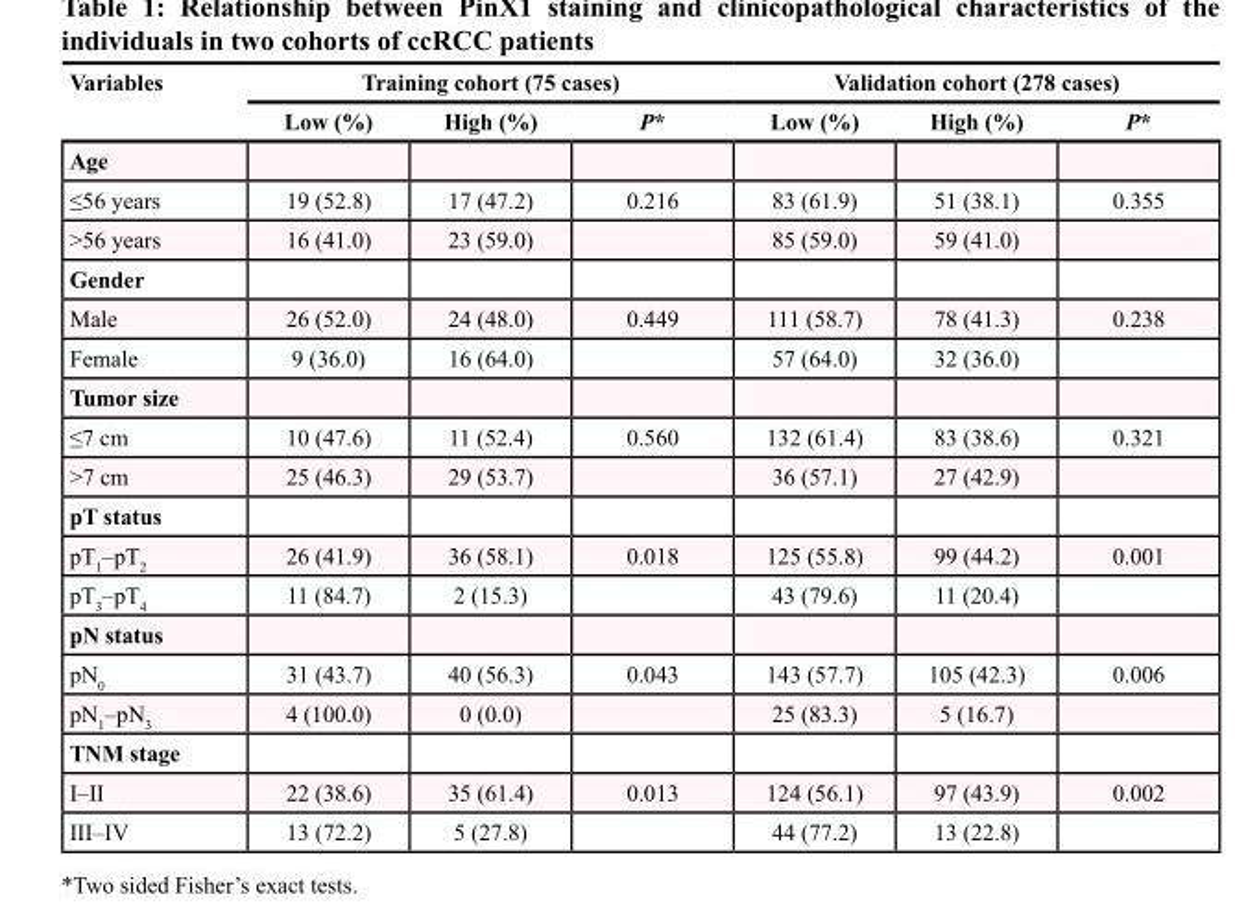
<table><thead><tr><td rowspan="2">Variables</td><td colspan="3">Training cohort (75 cases)</td><td colspan="3">Validation cohort (278 cases)</td></tr><tr><td>Low (%)</td><td>High (%)</td><td>P*</td><td>Low (%)</td><td>High (%)</td><td>P*</td></tr></thead><tbody><tr><td colspan="7">Age</td></tr><tr><td>≤56 years</td><td>19 (52.8)</td><td>17 (47.2)</td><td>0.216</td><td>83 (61.9)</td><td>51 (38.1)</td><td>0.355</td></tr><tr><td>&gt;56 years</td><td>16 (41.0)</td><td>23 (59.0)</td><td></td><td>85 (59.0)</td><td>59 (41.0)</td><td></td></tr><tr><td colspan="7">Gender</td></tr><tr><td>Male</td><td>26 (52.0)</td><td>24 (48.0)</td><td>0.449</td><td>111 (58.7)</td><td>78 (41.3)</td><td>0.238</td></tr><tr><td>Female</td><td>9 (36.0)</td><td>16 (64.0)</td><td></td><td>57 (64.0)</td><td>32 (36.0)</td><td></td></tr><tr><td colspan="7">Tumor size</td></tr><tr><td>≤7 cm</td><td>10 (47.6)</td><td>11 (52.4)</td><td>0.560</td><td>132 (61.4)</td><td>83 (38.6)</td><td>0.321</td></tr><tr><td>&gt;7 cm</td><td>25 (46.3)</td><td>29 (53.7)</td><td></td><td>36 (57.1)</td><td>27 (42.9)</td><td></td></tr><tr><td colspan="7">pT status</td></tr><tr><td>pT<sub>1</sub>–pT<sub>2</sub></td><td>26 (41.9)</td><td>36 (58.1)</td><td>0.018</td><td>125 (55.8)</td><td>99 (44.2)</td><td>0.001</td></tr><tr><td>pT<sub>3</sub>–pT<sub>4</sub></td><td>11 (84.7)</td><td>2 (15.3)</td><td></td><td>43 (79.6)</td><td>11 (20.4)</td><td></td></tr><tr><td colspan="7">pN status</td></tr><tr><td>pN<sub>0</sub></td><td>31 (43.7)</td><td>40 (56.3)</td><td>0.043</td><td>143 (57.7)</td><td>105 (42.3)</td><td>0.006</td></tr><tr><td>pN<sub>1</sub>–pN<sub>3</sub></td><td>4 (100.0)</td><td>0 (0.0)</td><td></td><td>25 (83.3)</td><td>5 (16.7)</td><td></td></tr><tr><td colspan="7">TNM stage</td></tr><tr><td>I–II</td><td>22 (38.6)</td><td>35 (61.4)</td><td>0.013</td><td>124 (56.1)</td><td>97 (43.9)</td><td>0.002</td></tr><tr><td>III–IV</td><td>13 (72.2)</td><td>5 (27.8)</td><td></td><td>44 (77.2)</td><td>13 (22.8)</td><td></td></tr></tbody></table>